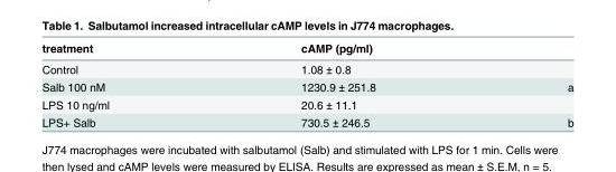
<table><thead><tr><td>treatment</td><td>cAMP (pg/ml)</td><td></td></tr></thead><tbody><tr><td>Control</td><td>1.08 ± 0.8</td><td></td></tr><tr><td>Salb 100 nM</td><td>1230.9 ± 251.8</td><td>a</td></tr><tr><td>LPS 10 ng/ml</td><td>20.6 ± 11.1</td><td></td></tr><tr><td>LPS+ Salb</td><td>730.5 ± 246.5</td><td>b</td></tr></tbody></table>